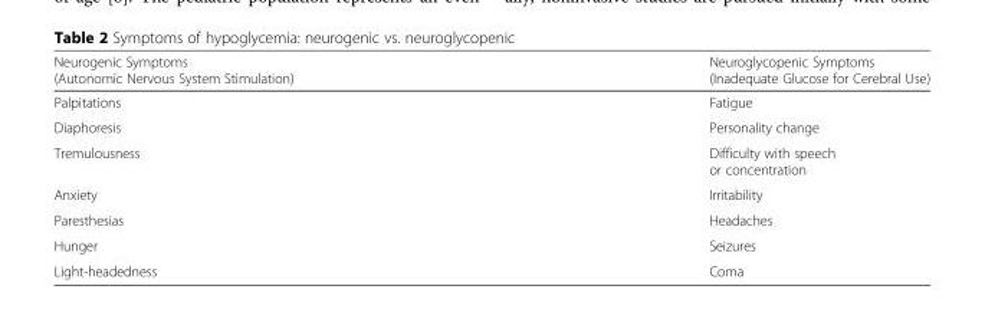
<table><thead><tr><td>Neurogenic Symptoms (Autonomic Nervous System Stimulation)</td><td>Neuroglycopenic Symptoms (Inadequate Glucose for Cerebral Use)</td></tr></thead><tbody><tr><td>Palpitations</td><td>Fatigue</td></tr><tr><td>Diaphoresis</td><td>Personality change</td></tr><tr><td>Tremulousness</td><td>Difficulty with speech or concentration</td></tr><tr><td>Anxiety</td><td>Irritability</td></tr><tr><td>Paresthesias</td><td>Headaches</td></tr><tr><td>Hunger</td><td>Seizures</td></tr><tr><td>Light-headedness</td><td>Coma</td></tr></tbody></table>